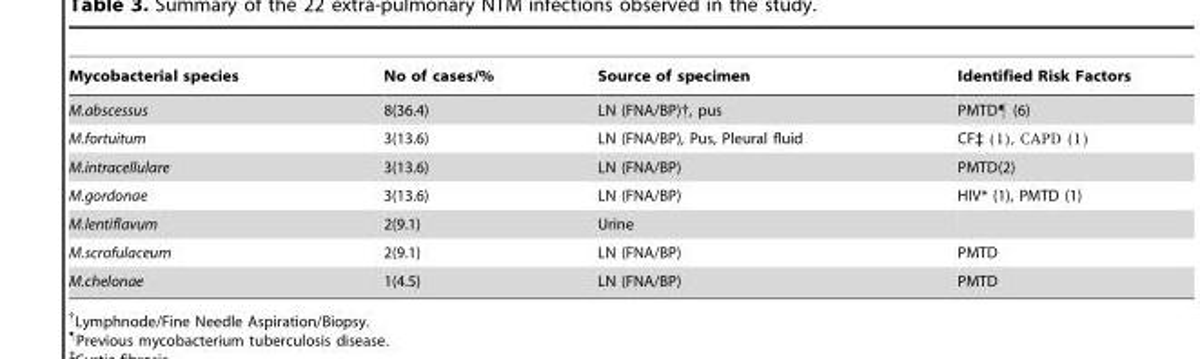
<table><thead><tr><td>Mycobacterial species</td><td>No of cases/%</td><td>Source of specimen</td><td>Identified Risk Factors</td></tr></thead><tbody><tr><td>M.abscessus</td><td>8(36.4)</td><td>LN (FNA/BP)†, pus</td><td>PMTD¶ (6)</td></tr><tr><td>M.fortuitum</td><td>3(13.6)</td><td>LN (FNA/BP), Pus, Pleural fluid</td><td>CF‡ (1), CAPD (1)</td></tr><tr><td>M.intracellulare</td><td>3(13.6)</td><td>LN (FNA/BP)</td><td>PMTD(2)</td></tr><tr><td>M.gordonae</td><td>3(13.6)</td><td>LN (FNA/BP)</td><td>HIV* (1), PMTD (1)</td></tr><tr><td>M.lentiflavum</td><td>2(9.1)</td><td>Urine</td><td></td></tr><tr><td>M.scrofulaceum</td><td>2(9.1)</td><td>LN (FNA/BP)</td><td>PMTD</td></tr><tr><td>M.chelonae</td><td>1(4.5)</td><td>LN (FNA/BP)</td><td>PMTD</td></tr></tbody></table>